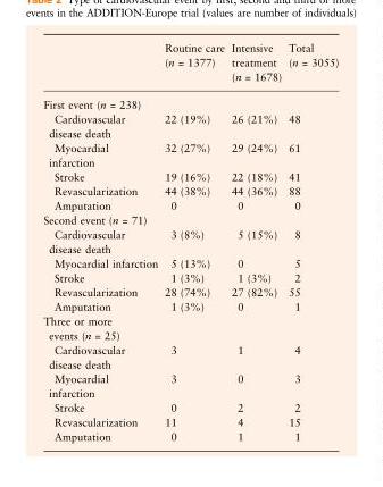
<table><thead><tr><td></td><td>Routine care (n = 1377)</td><td>Intensive treatment (n = 1678)</td><td>Total (n = 3055)</td></tr></thead><tbody><tr><td colspan="4">First event (n = 238)</td></tr><tr><td>Cardiovascular disease death</td><td>22 (19%)</td><td>26 (21%)</td><td>48</td></tr><tr><td>Myocardial infarction</td><td>32 (27%)</td><td>29 (24%)</td><td>61</td></tr><tr><td>Stroke</td><td>19 (16%)</td><td>22 (18%)</td><td>41</td></tr><tr><td>Revascularization</td><td>44 (38%)</td><td>44 (36%)</td><td>88</td></tr><tr><td>Amputation</td><td>0</td><td>0</td><td>0</td></tr><tr><td colspan="4">Second event (n = 71)</td></tr><tr><td>Cardiovascular disease death</td><td>3 (8%)</td><td>5 (15%)</td><td>8</td></tr><tr><td>Myocardial infarction</td><td>5 (13%)</td><td>0</td><td>5</td></tr><tr><td>Stroke</td><td>1 (3%)</td><td>1 (3%)</td><td>2</td></tr><tr><td>Revascularization</td><td>28 (74%)</td><td>27 (82%)</td><td>55</td></tr><tr><td>Amputation</td><td>1 (3%)</td><td>0</td><td>1</td></tr><tr><td colspan="4">Three or more events (n = 25)</td></tr><tr><td>Cardiovascular disease death</td><td>3</td><td>1</td><td>4</td></tr><tr><td>Myocardial infarction</td><td>3</td><td>0</td><td>3</td></tr><tr><td>Stroke</td><td>0</td><td>2</td><td>2</td></tr><tr><td>Revascularization</td><td>11</td><td>4</td><td>15</td></tr><tr><td>Amputation</td><td>0</td><td>1</td><td>1</td></tr></tbody></table>